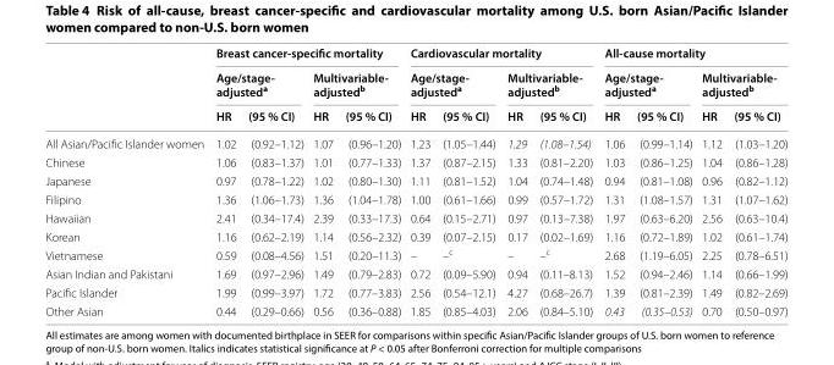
<table><thead><tr><td rowspan="3"></td><td colspan="4">Breast cancer-specific mortality</td><td colspan="4">Cardiovascular mortality</td><td colspan="4">All-cause mortality</td></tr><tr><td colspan="2">Age/stage- adjusted<sup>a</sup></td><td colspan="2">Multivariable- adjusted<sup>b</sup></td><td colspan="2">Age/stage- adjusted<sup>a</sup></td><td colspan="2">Multivariable- adjusted<sup>b</sup></td><td colspan="2">Age/stage- adjusted<sup>a</sup></td><td colspan="2">Multivariable- adjusted<sup>b</sup></td></tr><tr><td>HR</td><td>(95 % CI)</td><td>HR</td><td>(95 % CI)</td><td>HR</td><td>(95 % CI)</td><td>HR</td><td>(95 % CI)</td><td>HR</td><td>(95 % CI)</td><td>HR</td><td>(95 % CI)</td></tr></thead><tbody><tr><td>All Asian/Pacific Islander women</td><td>1.02</td><td>(0.92–1.12)</td><td>1.07</td><td>(0.96–1.20)</td><td>1.23</td><td>(1.05–1.44)</td><td>1.29</td><td>(1.08–1.54)</td><td>1.06</td><td>(0.99–1.14)</td><td>1.12</td><td>(1.03–1.20)</td></tr><tr><td>Chinese</td><td>1.06</td><td>(0.83–1.37)</td><td>1.01</td><td>(0.77–1.33)</td><td>1.37</td><td>(0.87–2.15)</td><td>1.33</td><td>(0.81–2.20)</td><td>1.03</td><td>(0.86–1.25)</td><td>1.04</td><td>(0.86–1.28)</td></tr><tr><td>Japanese</td><td>0.97</td><td>(0.78–1.22)</td><td>1.02</td><td>(0.80–1.30)</td><td>1.11</td><td>(0.81–1.52)</td><td>1.04</td><td>(0.74–1.48)</td><td>0.94</td><td>(0.81–1.08)</td><td>0.96</td><td>(0.82–1.12)</td></tr><tr><td>Filipino</td><td>1.36</td><td>(1.06–1.73)</td><td>1.36</td><td>(1.04–1.78)</td><td>1.00</td><td>(0.61–1.66)</td><td>0.99</td><td>(0.57–1.72)</td><td>1.31</td><td>(1.08–1.57)</td><td>1.31</td><td>(1.07–1.62)</td></tr><tr><td>Hawaiian</td><td>2.41</td><td>(0.34–17.4)</td><td>2.39</td><td>(0.33–17.3)</td><td>0.64</td><td>(0.15–2.71)</td><td>0.97</td><td>(0.13–7.38)</td><td>1.97</td><td>(0.63–6.20)</td><td>2.56</td><td>(0.63–10.4)</td></tr><tr><td>Korean</td><td>1.16</td><td>(0.62–2.19)</td><td>1.14</td><td>(0.56–2.32)</td><td>0.39</td><td>(0.07–2.15)</td><td>0.17</td><td>(0.02–1.69)</td><td>1.16</td><td>(0.72–1.89)</td><td>1.02</td><td>(0.61–1.74)</td></tr><tr><td>Vietnamese</td><td>0.59</td><td>(0.08–4.56)</td><td>1.51</td><td>(0.20–11.3)</td><td>–</td><td>–<sup>c</sup></td><td>–</td><td>–<sup>c</sup></td><td>2.68</td><td>(1.19–6.05)</td><td>2.25</td><td>(0.78–6.51)</td></tr><tr><td>Asian Indian and Pakistani</td><td>1.69</td><td>(0.97–2.96)</td><td>1.49</td><td>(0.79–2.83)</td><td>0.72</td><td>(0.09–5.90)</td><td>0.94</td><td>(0.11–8.13)</td><td>1.52</td><td>(0.94–2.46)</td><td>1.14</td><td>(0.66–1.99)</td></tr><tr><td>Pacific Islander</td><td>1.99</td><td>(0.99–3.97)</td><td>1.72</td><td>(0.77–3.83)</td><td>2.56</td><td>(0.54–12.1)</td><td>4.27</td><td>(0.68–26.7)</td><td>1.39</td><td>(0.81–2.39)</td><td>1.49</td><td>(0.82–2.69)</td></tr><tr><td>Other Asian</td><td>0.44</td><td>(0.29–0.66)</td><td>0.56</td><td>(0.36–0.88)</td><td>1.85</td><td>(0.85–4.03)</td><td>2.06</td><td>(0.84–5.10)</td><td>0.43</td><td>(0.35–0.53)</td><td>0.70</td><td>(0.50–0.97)</td></tr></tbody></table>